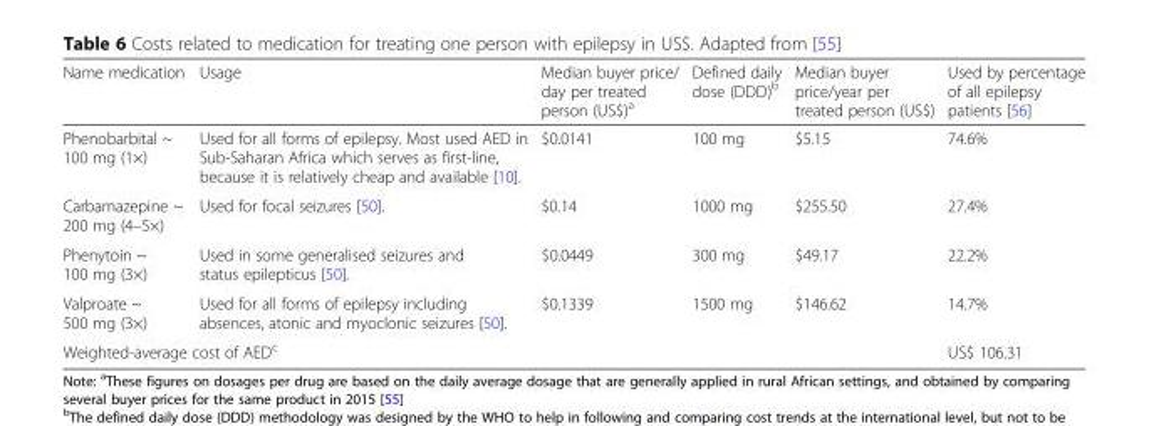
<table><thead><tr><td>Name medication</td><td>Usage</td><td>Median buyer price/ day per treated person (US$)<sup>a</sup></td><td>Defined daily dose (DDD)<sup>b</sup></td><td>Median buyer price/year per treated person (US$)</td><td>Used by percentage of all epilepsy patients [56]</td></tr></thead><tbody><tr><td>Phenobarbital ~ 100 mg (1×)</td><td>Used for all forms of epilepsy. Most used AED in Sub-Saharan Africa which serves as first-line, because it is relatively cheap and available [10].</td><td>$0.0141</td><td>100 mg</td><td>$5.15</td><td>74.6%</td></tr><tr><td>Carbamazepine ~ 200 mg (4–5×)</td><td>Used for focal seizures [50].</td><td>$0.14</td><td>1000 mg</td><td>$255.50</td><td>27.4%</td></tr><tr><td>Phenytoin ~ 100 mg (3×)</td><td>Used in some generalised seizures and status epilepticus [50].</td><td>$0.0449</td><td>300 mg</td><td>$49.17</td><td>22.2%</td></tr><tr><td>Valproate ~ 500 mg (3×)</td><td>Used for all forms of epilepsy including absences, atonic and myoclonic seizures [50].</td><td>$0.1339</td><td>1500 mg</td><td>$146.62</td><td>14.7%</td></tr><tr><td colspan="5">Weighted-average cost of AED<sup>c</sup></td><td>US$ 106.31</td></tr></tbody></table>